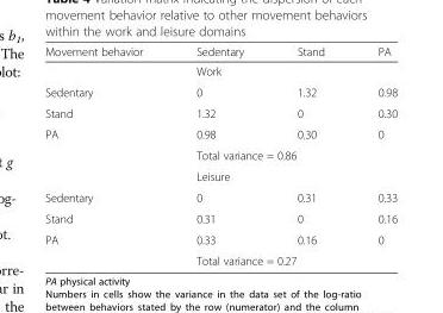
<table><thead><tr><td>Movement behavior</td><td>Sedentary</td><td>Stand</td><td>PA</td></tr></thead><tbody><tr><td></td><td colspan="3">Work</td></tr><tr><td>Sedentary</td><td>0</td><td>1.32</td><td>0.98</td></tr><tr><td>Stand</td><td>1.32</td><td>0</td><td>0.30</td></tr><tr><td rowspan="3">PA</td><td>0.98</td><td>0.30</td><td>0</td></tr><tr><td colspan="3">Total variance = 0.86</td></tr><tr><td colspan="3">Leisure</td></tr><tr><td>Sedentary</td><td>0</td><td>0.31</td><td>0.33</td></tr><tr><td>Stand</td><td>0.31</td><td>0</td><td>0.16</td></tr><tr><td rowspan="2">PA</td><td>0.33</td><td>0.16</td><td>0</td></tr><tr><td colspan="3">Total variance = 0.27</td></tr></tbody></table>